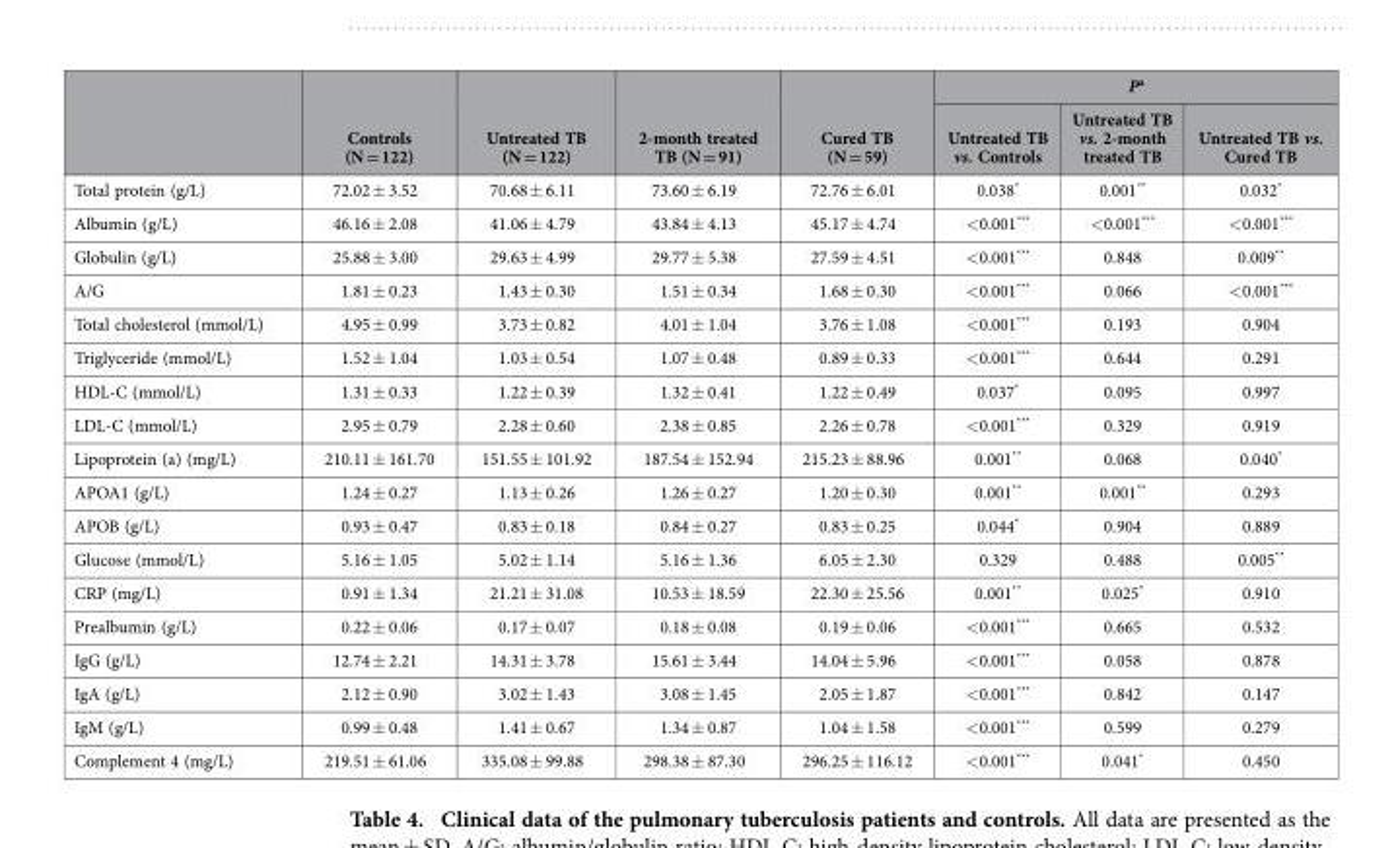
<table><thead><tr><td rowspan="2"></td><td rowspan="2">Controls (N = 122)</td><td rowspan="2">Untreated TB (N = 122)</td><td rowspan="2">2-month treated TB (N = 91)</td><td rowspan="2">Cured TB (N = 59)</td><td colspan="3">P<sup>a</sup></td></tr><tr><td>Untreated TB vs. Controls</td><td>Untreated TB vs. 2-month treated TB</td><td>Untreated TB vs. Cured TB</td></tr></thead><tbody><tr><td>Total protein (g/L)</td><td>72.02 ± 3.52</td><td>70.68 ± 6.11</td><td>73.60 ± 6.19</td><td>72.76 ± 6.01</td><td>0.038*</td><td>0.001**</td><td>0.032*</td></tr><tr><td>Albumin (g/L)</td><td>46.16 ± 2.08</td><td>41.06 ± 4.79</td><td>43.84 ± 4.13</td><td>45.17 ± 4.74</td><td>&lt;0.001***</td><td>&lt;0.001***</td><td>&lt;0.001***</td></tr><tr><td>Globulin (g/L)</td><td>25.88 ± 3.00</td><td>29.63 ± 4.99</td><td>29.77 ± 5.38</td><td>27.59 ± 4.51</td><td>&lt;0.001***</td><td>0.848</td><td>0.009**</td></tr><tr><td>A/G</td><td>1.81 ± 0.23</td><td>1.43 ± 0.30</td><td>1.51 ± 0.34</td><td>1.68 ± 0.30</td><td>&lt;0.001***</td><td>0.066</td><td>&lt;0.001***</td></tr><tr><td>Total cholesterol (mmol/L)</td><td>4.95 ± 0.99</td><td>3.73 ± 0.82</td><td>4.01 ± 1.04</td><td>3.76 ± 1.08</td><td>&lt;0.001***</td><td>0.193</td><td>0.904</td></tr><tr><td>Triglyceride (mmol/L)</td><td>1.52 ± 1.04</td><td>1.03 ± 0.54</td><td>1.07 ± 0.48</td><td>0.89 ± 0.33</td><td>&lt;0.001***</td><td>0.644</td><td>0.291</td></tr><tr><td>HDL-C (mmol/L)</td><td>1.31 ± 0.33</td><td>1.22 ± 0.39</td><td>1.32 ± 0.41</td><td>1.22 ± 0.49</td><td>0.037*</td><td>0.095</td><td>0.997</td></tr><tr><td>LDL-C (mmol/L)</td><td>2.95 ± 0.79</td><td>2.28 ± 0.60</td><td>2.38 ± 0.85</td><td>2.26 ± 0.78</td><td>&lt;0.001***</td><td>0.329</td><td>0.919</td></tr><tr><td>Lipoprotein (a) (mg/L)</td><td>210.11 ± 161.70</td><td>151.55 ± 101.92</td><td>187.54 ± 152.94</td><td>215.23 ± 88.96</td><td>0.001**</td><td>0.068</td><td>0.040*</td></tr><tr><td>APOA1 (g/L)</td><td>1.24 ± 0.27</td><td>1.13 ± 0.26</td><td>1.26 ± 0.27</td><td>1.20 ± 0.30</td><td>0.001**</td><td>0.001**</td><td>0.293</td></tr><tr><td>APOB (g/L)</td><td>0.93 ± 0.47</td><td>0.83 ± 0.18</td><td>0.84 ± 0.27</td><td>0.83 ± 0.25</td><td>0.044*</td><td>0.904</td><td>0.889</td></tr><tr><td>Glucose (mmol/L)</td><td>5.16 ± 1.05</td><td>5.02 ± 1.14</td><td>5.16 ± 1.36</td><td>6.05 ± 2.30</td><td>0.329</td><td>0.488</td><td>0.005**</td></tr><tr><td>CRP (mg/L)</td><td>0.91 ± 1.34</td><td>21.21 ± 31.08</td><td>10.53 ± 18.59</td><td>22.30 ± 25.56</td><td>0.001**</td><td>0.025*</td><td>0.910</td></tr><tr><td>Prealbumin (g/L)</td><td>0.22 ± 0.06</td><td>0.17 ± 0.07</td><td>0.18 ± 0.08</td><td>0.19 ± 0.06</td><td>&lt;0.001***</td><td>0.665</td><td>0.532</td></tr><tr><td>IgG (g/L)</td><td>12.74 ± 2.21</td><td>14.31 ± 3.78</td><td>15.61 ± 3.44</td><td>14.04 ± 5.96</td><td>&lt;0.001***</td><td>0.058</td><td>0.878</td></tr><tr><td>IgA (g/L)</td><td>2.12 ± 0.90</td><td>3.02 ± 1.43</td><td>3.08 ± 1.45</td><td>2.05 ± 1.87</td><td>&lt;0.001***</td><td>0.842</td><td>0.147</td></tr><tr><td>IgM (g/L)</td><td>0.99 ± 0.48</td><td>1.41 ± 0.67</td><td>1.34 ± 0.87</td><td>1.04 ± 1.58</td><td>&lt;0.001***</td><td>0.599</td><td>0.279</td></tr><tr><td>Complement 4 (mg/L)</td><td>219.51 ± 61.06</td><td>335.08 ± 99.88</td><td>298.38 ± 87.30</td><td>296.25 ± 116.12</td><td>&lt;0.001***</td><td>0.041*</td><td>0.450</td></tr></tbody></table>